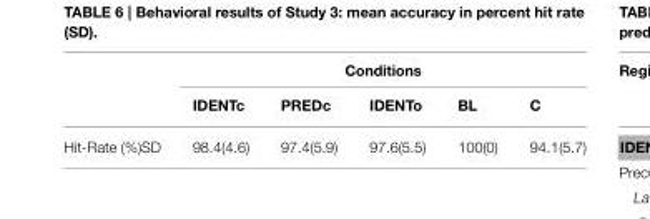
<table><thead><tr><td rowspan="2"></td><td colspan="5">Conditions</td></tr><tr><td>IDENTc</td><td>PREDc</td><td>IDENTo</td><td>BL</td><td>C</td></tr></thead><tbody><tr><td>Hit-Rate (%)SD</td><td>98.4(4.6)</td><td>97.4(5.9)</td><td>97.6(5.5)</td><td>100(0)</td><td>94.1(5.7)</td></tr></tbody></table>